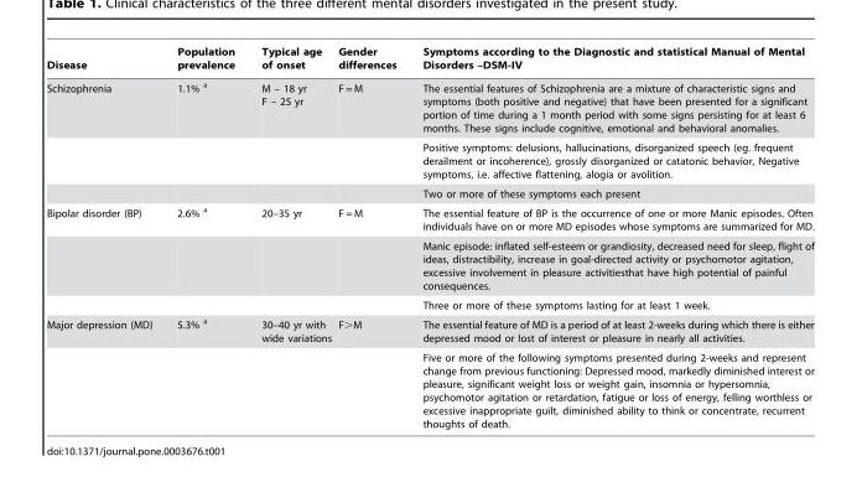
<table><thead><tr><td>Disease</td><td>Population prevalence</td><td>Typical age of onset</td><td>Gender differences</td><td>Symptoms according to the Diagnostic and statistical Manual of Mental Disorders –DSM-IV</td></tr></thead><tbody><tr><td rowspan="3">Schizophrenia</td><td>1.1% <sup>a</sup></td><td>M – 18 yr F – 25 yr</td><td>F = M</td><td>The essential features of Schizophrenia are a mixture of characteristic signs and symptoms (both positive and negative) that have been presented for a significant portion of time during a 1 month period with some signs persisting for at least 6 months. These signs include cognitive, emotional and behavioral anomalies.</td></tr><tr><td></td><td></td><td></td><td>Positive symptoms: delusions, hallucinations, disorganized speech (eg. frequent derailment or incoherence), grossly disorganized or catatonic behavior, Negative symptoms, i.e. affective flattening, alogia or avolition.</td></tr><tr><td></td><td></td><td></td><td>Two or more of these symptoms each present</td></tr><tr><td rowspan="3">Bipolar disorder (BP)</td><td>2.6% <sup>a</sup></td><td>20–35 yr</td><td>F = M</td><td>The essential feature of BP is the occurrence of one or more Manic episodes. Often individuals have on or more MD episodes whose symptoms are summarized for MD.</td></tr><tr><td></td><td></td><td></td><td>Manic episode: inflated self-esteem or grandiosity, decreased need for sleep, flight of ideas, distractibility, increase in goal-directed activity or psychomotor agitation, excessive involvement in pleasure activitiesthat have high potential of painful consequences.</td></tr><tr><td></td><td></td><td></td><td>Three or more of these symptoms lasting for at least 1 week.</td></tr><tr><td rowspan="2">Major depression (MD)</td><td>5.3% <sup>a</sup></td><td>30–40 yr with wide variations</td><td>F&gt;M</td><td>The essential feature of MD is a period of at least 2-weeks during which there is either depressed mood or lost of interest or pleasure in nearly all activities.</td></tr><tr><td></td><td></td><td></td><td>Five or more of the following symptoms presented during 2-weeks and represent change from previous functioning: Depressed mood, markedly diminished interest or pleasure, significant weight loss or weight gain, insomnia or hypersomnia, psychomotor agitation or retardation, fatigue or loss of energy, felling worthless or excessive inappropriate guilt, diminished ability to think or concentrate, recurrent thoughts of death.</td></tr></tbody></table>